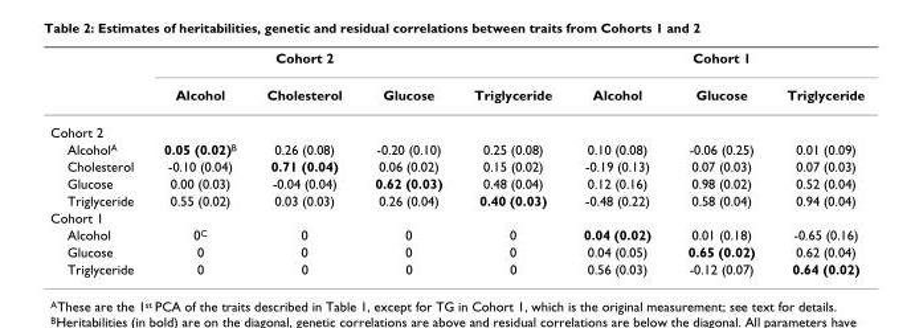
<table><thead><tr><td rowspan="2"></td><td colspan="3">Cohort 2</td><td rowspan="2">Triglyceride</td><td colspan="3">Cohort 1</td></tr><tr><td>Alcohol</td><td>Cholesterol</td><td>Glucose</td><td>Alcohol</td><td>Glucose</td><td>Triglyceride</td></tr></thead><tbody><tr><td colspan="8">Cohort 2</td></tr><tr><td>AlcoholA</td><td>0.05 (0.02)B</td><td>0.26 (0.08)</td><td>-0.20 (0.10)</td><td>0.25 (0.08)</td><td>0.10 (0.08)</td><td>-0.06 (0.25)</td><td>0.01 (0.09)</td></tr><tr><td>Cholesterol</td><td>-0.10 (0.04)</td><td>0.71 (0.04)</td><td>0.06 (0.02)</td><td>0.15 (0.02)</td><td>-0.19 (0.13)</td><td>0.07 (0.03)</td><td>0.07 (0.03)</td></tr><tr><td>Glucose</td><td>0.00 (0.03)</td><td>-0.04 (0.04)</td><td>0.62 (0.03)</td><td>0.48 (0.04)</td><td>0.12 (0.16)</td><td>0.98 (0.02)</td><td>0.52 (0.04)</td></tr><tr><td>Triglyceride</td><td>0.55 (0.02)</td><td>0.03 (0.03)</td><td>0.26 (0.04)</td><td>0.40 (0.03)</td><td>-0.48 (0.22)</td><td>0.58 (0.04)</td><td>0.94 (0.04)</td></tr><tr><td colspan="8">Cohort 1</td></tr><tr><td>Alcohol</td><td>0C</td><td>0</td><td>0</td><td>0</td><td>0.04 (0.02)</td><td>0.01 (0.18)</td><td>-0.65 (0.16)</td></tr><tr><td>Glucose</td><td>0</td><td>0</td><td>0</td><td>0</td><td>0.04 (0.05)</td><td>0.65 (0.02)</td><td>0.62 (0.04)</td></tr><tr><td>Triglyceride</td><td>0</td><td>0</td><td>0</td><td>0</td><td>0.56 (0.03)</td><td>-0.12 (0.07)</td><td>0.64 (0.02)</td></tr></tbody></table>